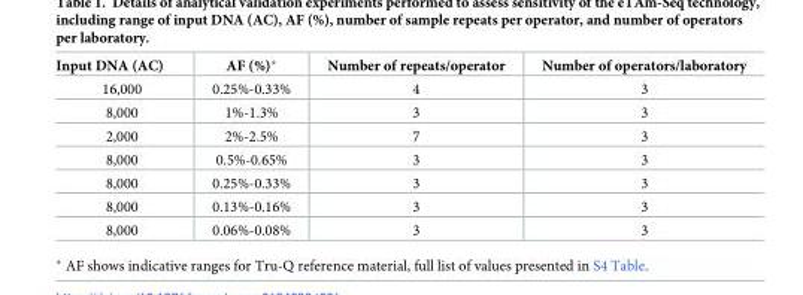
<table><thead><tr><td>Input DNA (AC)</td><td>AF (%)*</td><td>Number of repeats/operator</td><td>Number of operators/laboratory</td></tr></thead><tbody><tr><td>16,000</td><td>0.25%-0.33%</td><td>4</td><td>3</td></tr><tr><td>8,000</td><td>1%-1.3%</td><td>3</td><td>3</td></tr><tr><td>2,000</td><td>2%-2.5%</td><td>7</td><td>3</td></tr><tr><td>8,000</td><td>0.5%-0.65%</td><td>3</td><td>3</td></tr><tr><td>8,000</td><td>0.25%-0.33%</td><td>3</td><td>3</td></tr><tr><td>8,000</td><td>0.13%-0.16%</td><td>3</td><td>3</td></tr><tr><td>8,000</td><td>0.06%-0.08%</td><td>3</td><td>3</td></tr></tbody></table>